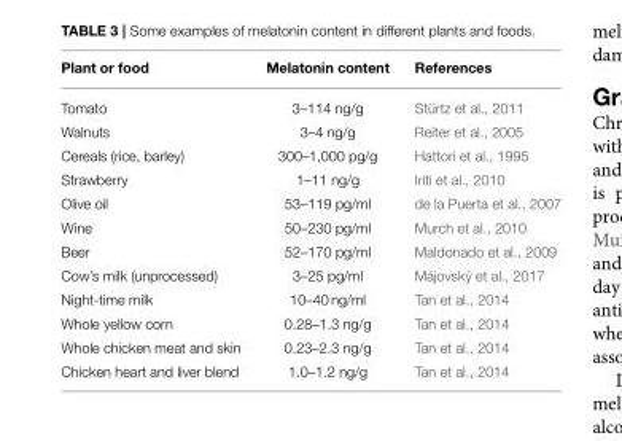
<table><thead><tr><td>Plant or food</td><td>Melatonin content</td><td>References</td></tr></thead><tbody><tr><td>Tomato</td><td>3–114 ng/g</td><td>Stürtz et al., 2011</td></tr><tr><td>Walnuts</td><td>3–4 ng/g</td><td>Reiter et al., 2005</td></tr><tr><td>Cereals (rice, barley)</td><td>300–1,000 pg/g</td><td>Hattori et al., 1995</td></tr><tr><td>Strawberry</td><td>1–11 ng/g</td><td>Iriti et al., 2010</td></tr><tr><td>Olive oil</td><td>53–119 pg/ml</td><td>de la Puerta et al., 2007</td></tr><tr><td>Wine</td><td>50–230 pg/ml</td><td>Murch et al., 2010</td></tr><tr><td>Beer</td><td>52–170 pg/ml</td><td>Maldonado et al., 2009</td></tr><tr><td>Cow’s milk (unprocessed)</td><td>3–25 pg/ml</td><td>Májovský et al., 2017</td></tr><tr><td>Night-time milk</td><td>10–40 ng/ml</td><td>Tan et al., 2014</td></tr><tr><td>Whole yellow corn</td><td>0.28–1.3 ng/g</td><td>Tan et al., 2014</td></tr><tr><td>Whole chicken meat and skin</td><td>0.23–2.3 ng/g</td><td>Tan et al., 2014</td></tr><tr><td>Chicken heart and liver blend</td><td>1.0–1.2 ng/g</td><td>Tan et al., 2014</td></tr></tbody></table>